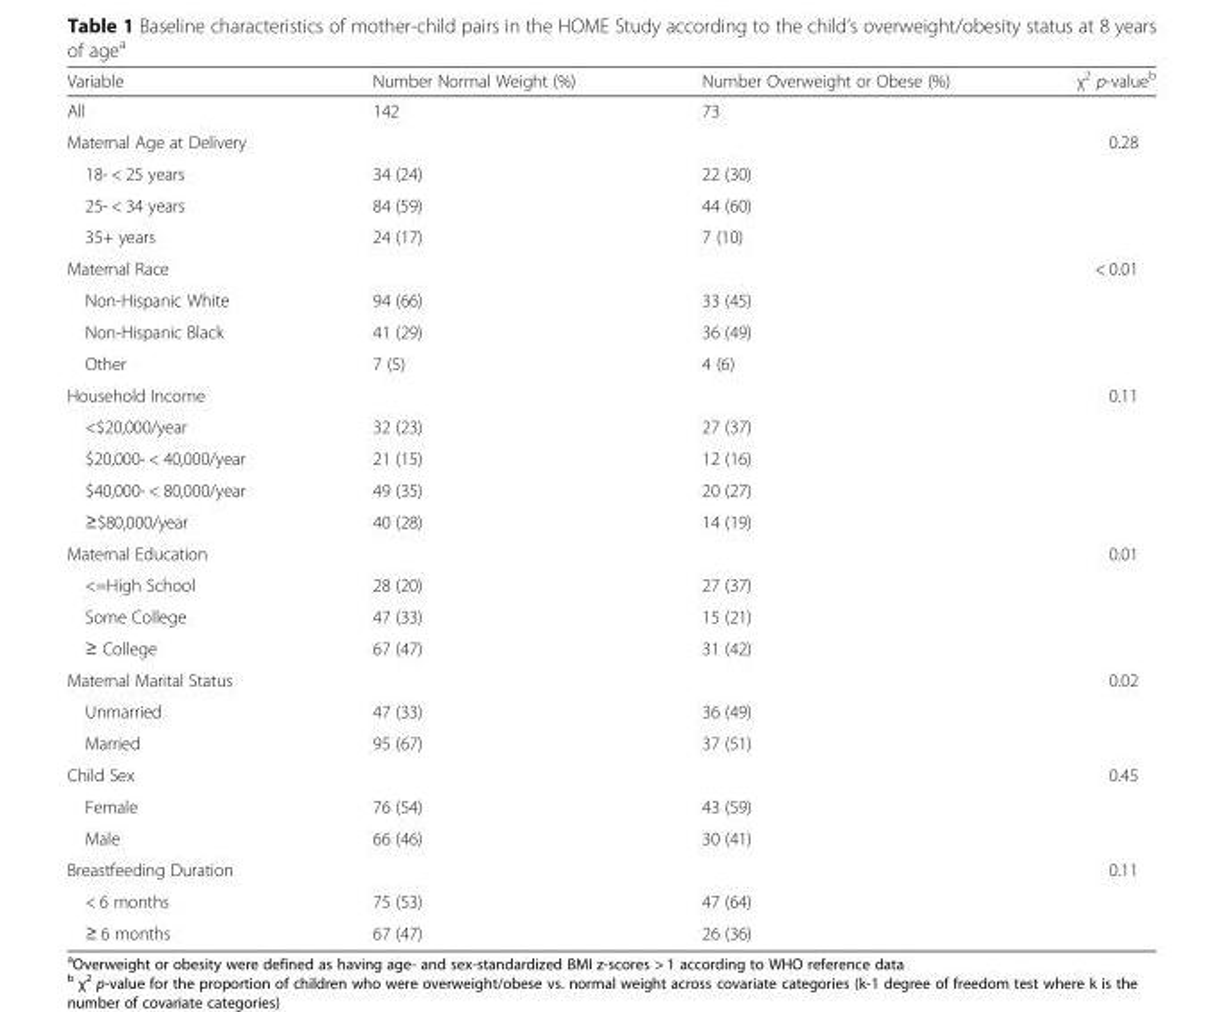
<table><thead><tr><td>Variable</td><td>Number Normal Weight (%)</td><td>Number Overweight or Obese (%)</td><td>χ<sup>2</sup> p-value<sup>b</sup></td></tr></thead><tbody><tr><td>All</td><td>142</td><td>73</td><td></td></tr><tr><td>Maternal Age at Delivery</td><td></td><td></td><td>0.28</td></tr><tr><td>18- &lt; 25 years</td><td>34 (24)</td><td>22 (30)</td><td></td></tr><tr><td>25- &lt; 34 years</td><td>84 (59)</td><td>44 (60)</td><td></td></tr><tr><td>35+ years</td><td>24 (17)</td><td>7 (10)</td><td></td></tr><tr><td>Maternal Race</td><td></td><td></td><td>&lt; 0.01</td></tr><tr><td>Non-Hispanic White</td><td>94 (66)</td><td>33 (45)</td><td></td></tr><tr><td>Non-Hispanic Black</td><td>41 (29)</td><td>36 (49)</td><td></td></tr><tr><td>Other</td><td>7 (5)</td><td>4 (6)</td><td></td></tr><tr><td>Household Income</td><td></td><td></td><td>0.11</td></tr><tr><td>&lt;$20,000/year</td><td>32 (23)</td><td>27 (37)</td><td></td></tr><tr><td>$20,000- &lt; 40,000/year</td><td>21 (15)</td><td>12 (16)</td><td></td></tr><tr><td>$40,000- &lt; 80,000/year</td><td>49 (35)</td><td>20 (27)</td><td></td></tr><tr><td>≥$80,000/year</td><td>40 (28)</td><td>14 (19)</td><td></td></tr><tr><td>Maternal Education</td><td></td><td></td><td>0.01</td></tr><tr><td>&lt;=High School</td><td>28 (20)</td><td>27 (37)</td><td></td></tr><tr><td>Some College</td><td>47 (33)</td><td>15 (21)</td><td></td></tr><tr><td>≥ College</td><td>67 (47)</td><td>31 (42)</td><td></td></tr><tr><td>Maternal Marital Status</td><td></td><td></td><td>0.02</td></tr><tr><td>Unmarried</td><td>47 (33)</td><td>36 (49)</td><td></td></tr><tr><td>Married</td><td>95 (67)</td><td>37 (51)</td><td></td></tr><tr><td>Child Sex</td><td></td><td></td><td>0.45</td></tr><tr><td>Female</td><td>76 (54)</td><td>43 (59)</td><td></td></tr><tr><td>Male</td><td>66 (46)</td><td>30 (41)</td><td></td></tr><tr><td>Breastfeeding Duration</td><td></td><td></td><td>0.11</td></tr><tr><td>&lt; 6 months</td><td>75 (53)</td><td>47 (64)</td><td></td></tr><tr><td>≥ 6 months</td><td>67 (47)</td><td>26 (36)</td><td></td></tr></tbody></table>